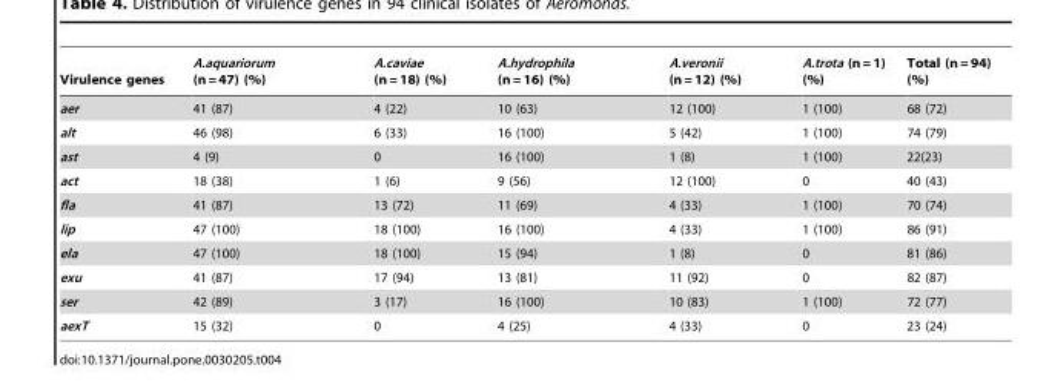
<table><thead><tr><td>Virulence genes</td><td>A.aquariorum (n = 47) (%)</td><td>A.caviae (n = 18) (%)</td><td>A.hydrophila (n = 16) (%)</td><td>A.veronii (n = 12) (%)</td><td>A.trota (n = 1) (%)</td><td>Total (n = 94) (%)</td></tr></thead><tbody><tr><td>aer</td><td>41 (87)</td><td>4 (22)</td><td>10 (63)</td><td>12 (100)</td><td>1 (100)</td><td>68 (72)</td></tr><tr><td>alt</td><td>46 (98)</td><td>6 (33)</td><td>16 (100)</td><td>5 (42)</td><td>1 (100)</td><td>74 (79)</td></tr><tr><td>ast</td><td>4 (9)</td><td>0</td><td>16 (100)</td><td>1 (8)</td><td>1 (100)</td><td>22(23)</td></tr><tr><td>act</td><td>18 (38)</td><td>1 (6)</td><td>9 (56)</td><td>12 (100)</td><td>0</td><td>40 (43)</td></tr><tr><td>fla</td><td>41 (87)</td><td>13 (72)</td><td>11 (69)</td><td>4 (33)</td><td>1 (100)</td><td>70 (74)</td></tr><tr><td>lip</td><td>47 (100)</td><td>18 (100)</td><td>16 (100)</td><td>4 (33)</td><td>1 (100)</td><td>86 (91)</td></tr><tr><td>ela</td><td>47 (100)</td><td>18 (100)</td><td>15 (94)</td><td>1 (8)</td><td>0</td><td>81 (86)</td></tr><tr><td>exu</td><td>41 (87)</td><td>17 (94)</td><td>13 (81)</td><td>11 (92)</td><td>0</td><td>82 (87)</td></tr><tr><td>ser</td><td>42 (89)</td><td>3 (17)</td><td>16 (100)</td><td>10 (83)</td><td>1 (100)</td><td>72 (77)</td></tr><tr><td>aexT</td><td>15 (32)</td><td>0</td><td>4 (25)</td><td>4 (33)</td><td>0</td><td>23 (24)</td></tr></tbody></table>